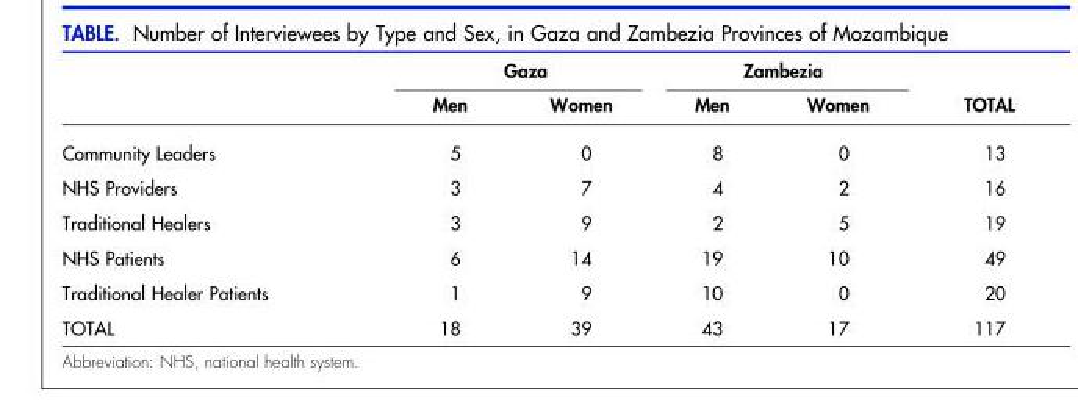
<table><thead><tr><td rowspan="2"></td><td colspan="2">Gaza</td><td colspan="2">Zambezia</td><td rowspan="2">TOTAL</td></tr><tr><td>Men</td><td>Women</td><td>Men</td><td>Women</td></tr></thead><tbody><tr><td>Community Leaders</td><td>5</td><td>0</td><td>8</td><td>0</td><td>13</td></tr><tr><td>NHS Providers</td><td>3</td><td>7</td><td>4</td><td>2</td><td>16</td></tr><tr><td>Traditional Healers</td><td>3</td><td>9</td><td>2</td><td>5</td><td>19</td></tr><tr><td>NHS Patients</td><td>6</td><td>14</td><td>19</td><td>10</td><td>49</td></tr><tr><td>Traditional Healer Patients</td><td>1</td><td>9</td><td>10</td><td>0</td><td>20</td></tr><tr><td>TOTAL</td><td>18</td><td>39</td><td>43</td><td>17</td><td>117</td></tr></tbody></table>